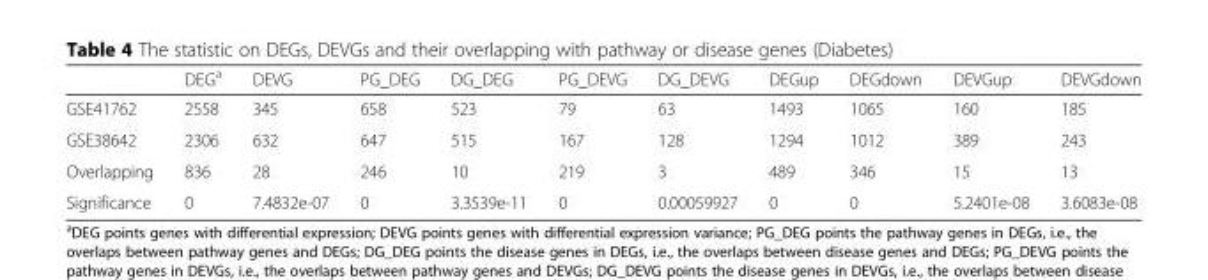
<table><thead><tr><td></td><td>DEG<sup>a</sup></td><td>DEVG</td><td>PG_DEG</td><td>DG_DEG</td><td>PG_DEVG</td><td>DG_DEVG</td><td>DEGup</td><td>DEGdown</td><td>DEVGup</td><td>DEVGdown</td></tr></thead><tbody><tr><td>GSE41762</td><td>2558</td><td>345</td><td>658</td><td>523</td><td>79</td><td>63</td><td>1493</td><td>1065</td><td>160</td><td>185</td></tr><tr><td>GSE38642</td><td>2306</td><td>632</td><td>647</td><td>515</td><td>167</td><td>128</td><td>1294</td><td>1012</td><td>389</td><td>243</td></tr><tr><td>Overlapping</td><td>836</td><td>28</td><td>246</td><td>10</td><td>219</td><td>3</td><td>489</td><td>346</td><td>15</td><td>13</td></tr><tr><td>Significance</td><td>0</td><td>7.4832e-07</td><td>0</td><td>3.3539e-11</td><td>0</td><td>0.00059927</td><td>0</td><td>0</td><td>5.2401e-08</td><td>3.6083e-08</td></tr></tbody></table>